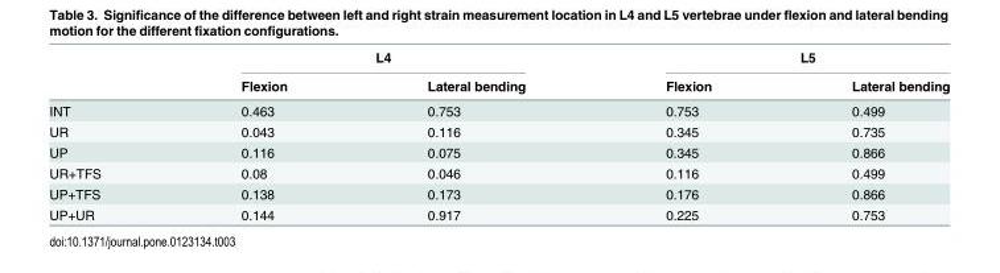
<table><thead><tr><td rowspan="2"></td><td colspan="2">L4</td><td colspan="2">L5</td></tr><tr><td>Flexion</td><td>Lateral bending</td><td>Flexion</td><td>Lateral bending</td></tr></thead><tbody><tr><td>INT</td><td>0.463</td><td>0.753</td><td>0.753</td><td>0.499</td></tr><tr><td>UR</td><td>0.043</td><td>0.116</td><td>0.345</td><td>0.735</td></tr><tr><td>UP</td><td>0.116</td><td>0.075</td><td>0.345</td><td>0.866</td></tr><tr><td>UR+TFS</td><td>0.08</td><td>0.046</td><td>0.116</td><td>0.499</td></tr><tr><td>UP+TFS</td><td>0.138</td><td>0.173</td><td>0.176</td><td>0.866</td></tr><tr><td>UP+UR</td><td>0.144</td><td>0.917</td><td>0.225</td><td>0.753</td></tr></tbody></table>